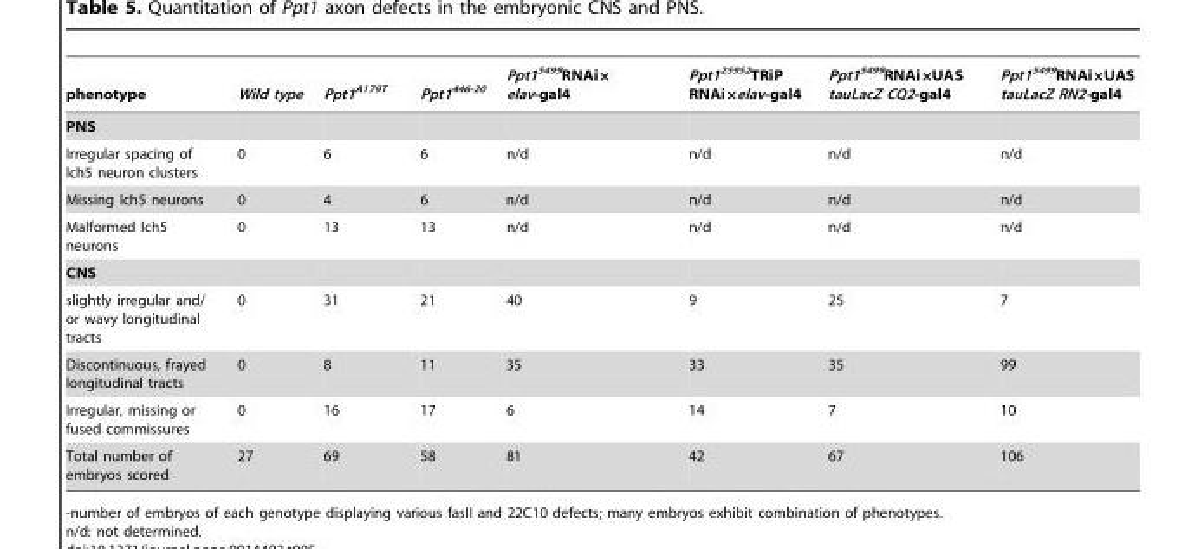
<table><thead><tr><td>phenotype</td><td>Wild type</td><td>Ppt1<sup>A179T</sup></td><td>Ppt1<sup>446-20</sup></td><td>Ppt1<sup>5499</sup>RNAi× elav-gal4</td><td>Ppt1<sup>25952</sup>TRiP RNAi×elav-gal4</td><td>Ppt1<sup>5499</sup>RNAi×UAS tauLacZ CQ2-gal4</td><td>Ppt1<sup>5499</sup>RNAi×UAS tauLacZ RN2-gal4</td></tr></thead><tbody><tr><td colspan="8">PNS</td></tr><tr><td>Irregular spacing of lch5 neuron clusters</td><td>0</td><td>6</td><td>6</td><td>n/d</td><td>n/d</td><td>n/d</td><td>n/d</td></tr><tr><td>Missing lch5 neurons</td><td>0</td><td>4</td><td>6</td><td>n/d</td><td>n/d</td><td>n/d</td><td>n/d</td></tr><tr><td>Malformed lch5 neurons</td><td>0</td><td>13</td><td>13</td><td>n/d</td><td>n/d</td><td>n/d</td><td>n/d</td></tr><tr><td colspan="8">CNS</td></tr><tr><td>slightly irregular and/ or wavy longitudinal tracts</td><td>0</td><td>31</td><td>21</td><td>40</td><td>9</td><td>25</td><td>7</td></tr><tr><td>Discontinuous, frayed longitudinal tracts</td><td>0</td><td>8</td><td>11</td><td>35</td><td>33</td><td>35</td><td>99</td></tr><tr><td>Irregular, missing or fused commissures</td><td>0</td><td>16</td><td>17</td><td>6</td><td>14</td><td>7</td><td>10</td></tr><tr><td>Total number of embryos scored</td><td>27</td><td>69</td><td>58</td><td>81</td><td>42</td><td>67</td><td>106</td></tr></tbody></table>